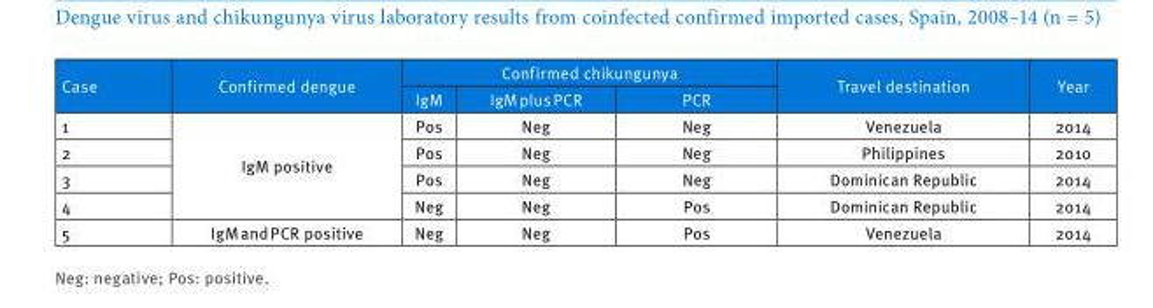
<table><thead><tr><td rowspan="2">Case</td><td rowspan="2">Confirmed dengue</td><td colspan="3">Confirmed chikungunya</td><td rowspan="2">Travel destination</td><td rowspan="2">Year</td></tr><tr><td>IgM</td><td>IgM plus PCR</td><td>PCR</td></tr></thead><tbody><tr><td>1</td><td rowspan="4">IgM positive</td><td>Pos</td><td>Neg</td><td>Neg</td><td>Venezuela</td><td>2014</td></tr><tr><td>2</td><td>Pos</td><td>Neg</td><td>Neg</td><td>Philippines</td><td>2010</td></tr><tr><td>3</td><td>Pos</td><td>Neg</td><td>Neg</td><td>Dominican Republic</td><td>2014</td></tr><tr><td>4</td><td>Neg</td><td>Neg</td><td>Pos</td><td>Dominican Republic</td><td>2014</td></tr><tr><td>5</td><td>IgM and PCR positive</td><td>Neg</td><td>Neg</td><td>Pos</td><td>Venezuela</td><td>2014</td></tr></tbody></table>